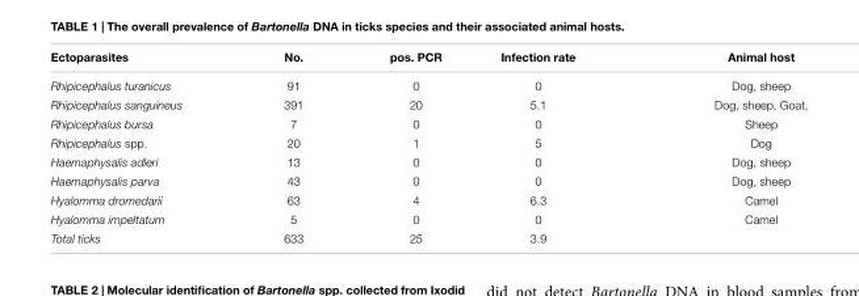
<table><thead><tr><td>Ectoparasites</td><td>No.</td><td>pos. PCR</td><td>Infection rate</td><td>Animal host</td></tr></thead><tbody><tr><td>Rhipicephalus turanicus</td><td>91</td><td>0</td><td>0</td><td>Dog, sheep</td></tr><tr><td>Rhipicephalus sanguineus</td><td>391</td><td>20</td><td>5.1</td><td>Dog, sheep, Goat,</td></tr><tr><td>Rhipicephalus bursa</td><td>7</td><td>0</td><td>0</td><td>Sheep</td></tr><tr><td>Rhipicephalus spp.</td><td>20</td><td>1</td><td>5</td><td>Dog</td></tr><tr><td>Haemaphysalis adleri</td><td>13</td><td>0</td><td>0</td><td>Dog, sheep</td></tr><tr><td>Haemaphysalis parva</td><td>43</td><td>0</td><td>0</td><td>Dog, sheep</td></tr><tr><td>Hyalomma dromedarii</td><td>63</td><td>4</td><td>6.3</td><td>Camel</td></tr><tr><td>Hyalomma impeltatum</td><td>5</td><td>0</td><td>0</td><td>Camel</td></tr><tr><td>Total ticks</td><td>633</td><td>25</td><td>3.9</td><td></td></tr></tbody></table>